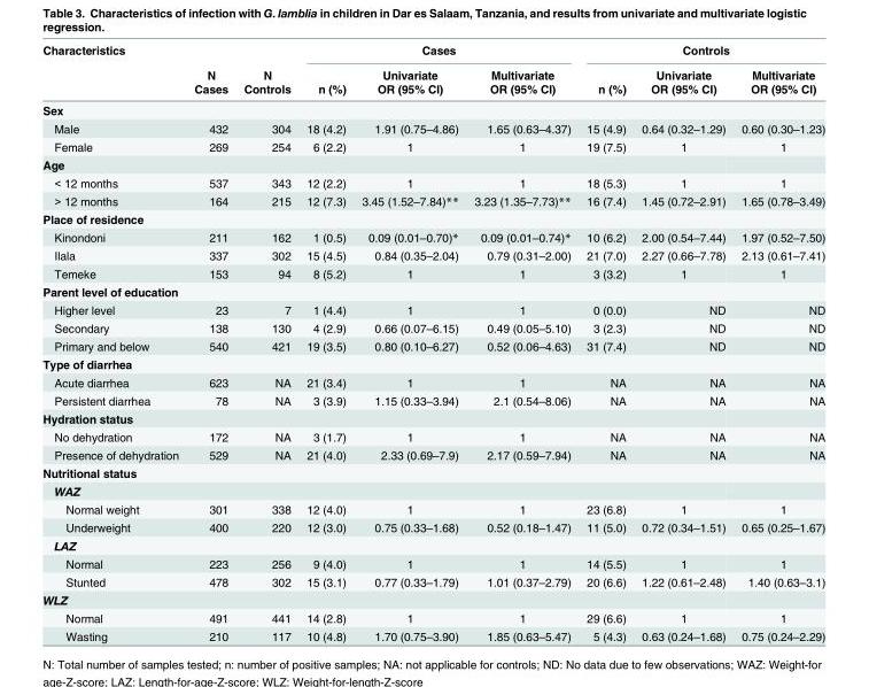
<table><thead><tr><td rowspan="3">Characteristics</td><td rowspan="3">N Cases</td><td rowspan="3">N Controls</td><td colspan="3">Cases</td><td colspan="3">Controls</td></tr><tr><td rowspan="2">n (%)</td><td rowspan="2">Univariate OR (95% CI)</td><td rowspan="2">Multivariate OR (95% CI)</td><td rowspan="2">n (%)</td><td rowspan="2">Univariate OR (95% CI)</td><td rowspan="2">Multivariate OR (95% CI)</td></tr><tr></tr></thead><tbody><tr><td colspan="9">Sex</td></tr><tr><td>Male</td><td>432</td><td>304</td><td>18 (4.2)</td><td>1.91 (0.75–4.86)</td><td>1.65 (0.63–4.37)</td><td>15 (4.9)</td><td>0.64 (0.32–1.29)</td><td>0.60 (0.30–1.23)</td></tr><tr><td>Female</td><td>269</td><td>254</td><td>6 (2.2)</td><td>1</td><td>1</td><td>19 (7.5)</td><td>1</td><td>1</td></tr><tr><td colspan="9">Age</td></tr><tr><td>&lt; 12 months</td><td>537</td><td>343</td><td>12 (2.2)</td><td>1</td><td>1</td><td>18 (5.3)</td><td>1</td><td>1</td></tr><tr><td>&gt; 12 months</td><td>164</td><td>215</td><td>12 (7.3)</td><td>3.45 (1.52–7.84)**</td><td>3.23 (1.35–7.73)**</td><td>16 (7.4)</td><td>1.45 (0.72–2.91)</td><td>1.65 (0.78–3.49)</td></tr><tr><td colspan="9">Place of residence</td></tr><tr><td>Kinondoni</td><td>211</td><td>162</td><td>1 (0.5)</td><td>0.09 (0.01–0.70)*</td><td>0.09 (0.01–0.74)*</td><td>10 (6.2)</td><td>2.00 (0.54–7.44)</td><td>1.97 (0.52–7.50)</td></tr><tr><td>Ilala</td><td>337</td><td>302</td><td>15 (4.5)</td><td>0.84 (0.35–2.04)</td><td>0.79 (0.31–2.00)</td><td>21 (7.0)</td><td>2.27 (0.66–7.78)</td><td>2.13 (0.61–7.41)</td></tr><tr><td>Temeke</td><td>153</td><td>94</td><td>8 (5.2)</td><td>1</td><td>1</td><td>3 (3.2)</td><td>1</td><td>1</td></tr><tr><td colspan="9">Parent level of education</td></tr><tr><td>Higher level</td><td>23</td><td>7</td><td>1 (4.4)</td><td>1</td><td>1</td><td>0 (0.0)</td><td>ND</td><td>ND</td></tr><tr><td>Secondary</td><td>138</td><td>130</td><td>4 (2.9)</td><td>0.66 (0.07–6.15)</td><td>0.49 (0.05–5.10)</td><td>3 (2.3)</td><td>ND</td><td>ND</td></tr><tr><td>Primary and below</td><td>540</td><td>421</td><td>19 (3.5)</td><td>0.80 (0.10–6.27)</td><td>0.52 (0.06–4.63)</td><td>31 (7.4)</td><td>ND</td><td>ND</td></tr><tr><td colspan="9">Type of diarrhea</td></tr><tr><td>Acute diarrhea</td><td>623</td><td>NA</td><td>21 (3.4)</td><td>1</td><td>1</td><td>NA</td><td>NA</td><td>NA</td></tr><tr><td>Persistent diarrhea</td><td>78</td><td>NA</td><td>3 (3.9)</td><td>1.15 (0.33–3.94)</td><td>2.1 (0.54–8.06)</td><td>NA</td><td>NA</td><td>NA</td></tr><tr><td colspan="9">Hydration status</td></tr><tr><td>No dehydration</td><td>172</td><td>NA</td><td>3 (1.7)</td><td>1</td><td>1</td><td>NA</td><td>NA</td><td>NA</td></tr><tr><td>Presence of dehydration</td><td>529</td><td>NA</td><td>21 (4.0)</td><td>2.33 (0.69–7.9)</td><td>2.17 (0.59–7.94)</td><td>NA</td><td>NA</td><td>NA</td></tr><tr><td colspan="9">Nutritional status</td></tr><tr><td colspan="9">WAZ</td></tr><tr><td>Normal weight</td><td>301</td><td>338</td><td>12 (4.0)</td><td>1</td><td>1</td><td>23 (6.8)</td><td>1</td><td>1</td></tr><tr><td>Underweight</td><td>400</td><td>220</td><td>12 (3.0)</td><td>0.75 (0.33–1.68)</td><td>0.52 (0.18–1.47)</td><td>11 (5.0)</td><td>0.72 (0.34–1.51)</td><td>0.65 (0.25–1.67)</td></tr><tr><td colspan="9">LAZ</td></tr><tr><td>Normal</td><td>223</td><td>256</td><td>9 (4.0)</td><td>1</td><td>1</td><td>14 (5.5)</td><td>1</td><td>1</td></tr><tr><td>Stunted</td><td>478</td><td>302</td><td>15 (3.1)</td><td>0.77 (0.33–1.79)</td><td>1.01 (0.37–2.79)</td><td>20 (6.6)</td><td>1.22 (0.61–2.48)</td><td>1.40 (0.63–3.1)</td></tr><tr><td colspan="9">WLZ</td></tr><tr><td>Normal</td><td>491</td><td>441</td><td>14 (2.8)</td><td>1</td><td>1</td><td>29 (6.6)</td><td>1</td><td>1</td></tr><tr><td>Wasting</td><td>210</td><td>117</td><td>10 (4.8)</td><td>1.70 (0.75–3.90)</td><td>1.85 (0.63–5.47)</td><td>5 (4.3)</td><td>0.63 (0.24–1.68)</td><td>0.75 (0.24–2.29)</td></tr></tbody></table>